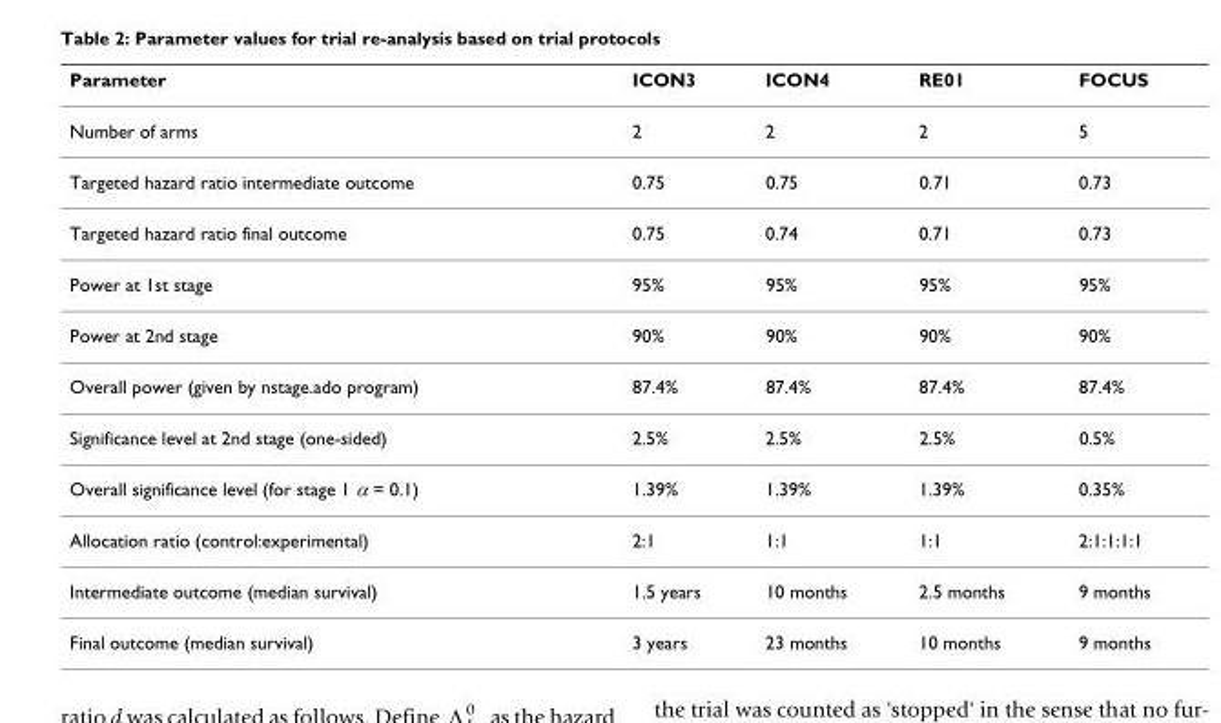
<table><thead><tr><td>Parameter</td><td>ICON3</td><td>ICON4</td><td>RE01</td><td>FOCUS</td></tr></thead><tbody><tr><td>Number of arms</td><td>2</td><td>2</td><td>2</td><td>5</td></tr><tr><td>Targeted hazard ratio intermediate outcome</td><td>0.75</td><td>0.75</td><td>0.71</td><td>0.73</td></tr><tr><td>Targeted hazard ratio final outcome</td><td>0.75</td><td>0.74</td><td>0.71</td><td>0.73</td></tr><tr><td>Power at 1st stage</td><td>95%</td><td>95%</td><td>95%</td><td>95%</td></tr><tr><td>Power at 2nd stage</td><td>90%</td><td>90%</td><td>90%</td><td>90%</td></tr><tr><td>Overall power (given by nstage.ado program)</td><td>87.4%</td><td>87.4%</td><td>87.4%</td><td>87.4%</td></tr><tr><td>Significance level at 2nd stage (one-sided)</td><td>2.5%</td><td>2.5%</td><td>2.5%</td><td>0.5%</td></tr><tr><td>Overall significance level (for stage 1 α = 0.1)</td><td>1.39%</td><td>1.39%</td><td>1.39%</td><td>0.35%</td></tr><tr><td>Allocation ratio (control:experimental)</td><td>2:1</td><td>1:1</td><td>1:1</td><td>2:1:1:1:1</td></tr><tr><td>Intermediate outcome (median survival)</td><td>1.5 years</td><td>10 months</td><td>2.5 months</td><td>9 months</td></tr><tr><td>Final outcome (median survival)</td><td>3 years</td><td>23 months</td><td>10 months</td><td>9 months</td></tr></tbody></table>